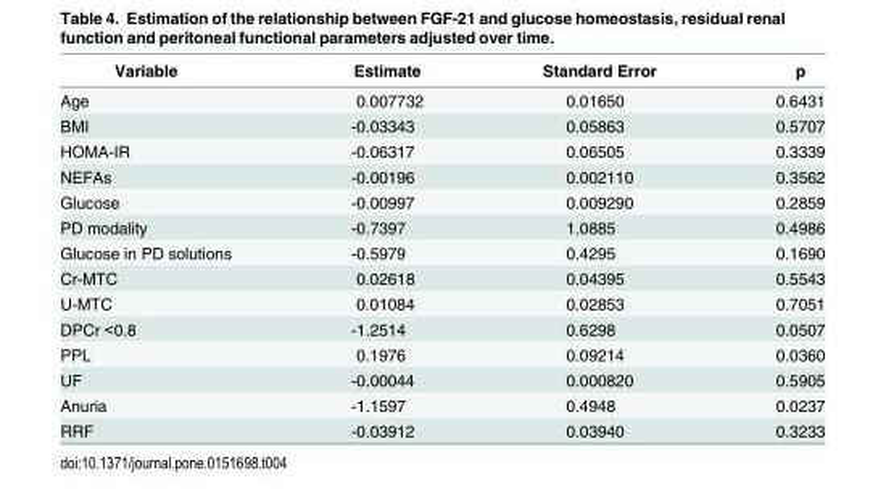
<table><thead><tr><td>Variable</td><td>Estimate</td><td>Standard Error</td><td>p</td></tr></thead><tbody><tr><td>Age</td><td>0.007732</td><td>0.01650</td><td>0.6431</td></tr><tr><td>BMI</td><td>-0.03343</td><td>0.05863</td><td>0.5707</td></tr><tr><td>HOMA-IR</td><td>-0.06317</td><td>0.06505</td><td>0.3339</td></tr><tr><td>NEFAs</td><td>-0.00196</td><td>0.002110</td><td>0.3562</td></tr><tr><td>Glucose</td><td>-0.00997</td><td>0.009290</td><td>0.2859</td></tr><tr><td>PD modality</td><td>-0.7397</td><td>1.0885</td><td>0.4986</td></tr><tr><td>Glucose in PD solutions</td><td>-0.5979</td><td>0.4295</td><td>0.1690</td></tr><tr><td>Cr-MTC</td><td>0.02618</td><td>0.04395</td><td>0.5543</td></tr><tr><td>U-MTC</td><td>0.01084</td><td>0.02853</td><td>0.7051</td></tr><tr><td>DPCr &lt;0.8</td><td>-1.2514</td><td>0.6298</td><td>0.0507</td></tr><tr><td>PPL</td><td>0.1976</td><td>0.09214</td><td>0.0360</td></tr><tr><td>UF</td><td>-0.00044</td><td>0.000820</td><td>0.5905</td></tr><tr><td>Anuria</td><td>-1.1597</td><td>0.4948</td><td>0.0237</td></tr><tr><td>RRF</td><td>-0.03912</td><td>0.03940</td><td>0.3233</td></tr></tbody></table>